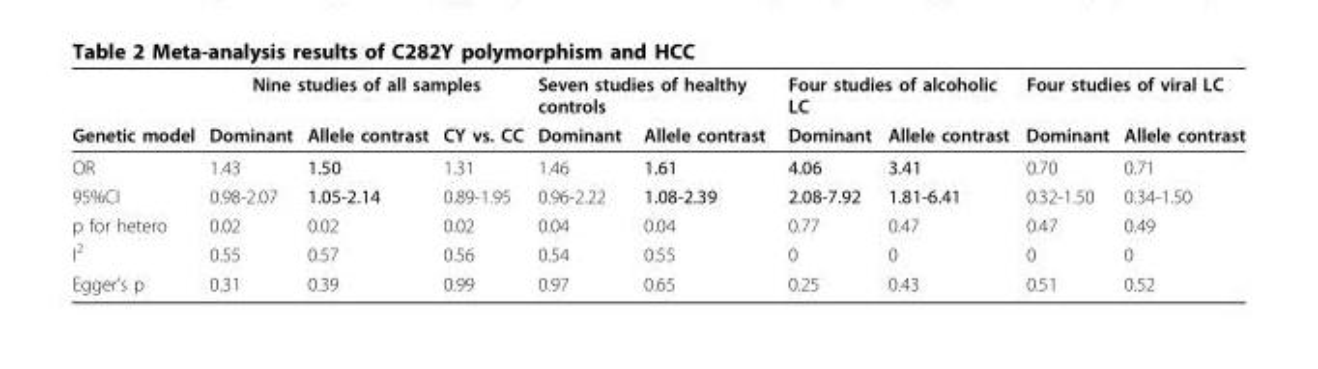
<table><thead><tr><td rowspan="2">Genetic model</td><td colspan="3">Nine studies of all samples</td><td colspan="2">Seven studies of healthy controls</td><td colspan="2">Four studies of alcoholic LC</td><td colspan="2">Four studies of viral LC</td></tr><tr><td>Dominant</td><td>Allele contrast</td><td>CY vs. CC</td><td>Dominant</td><td>Allele contrast</td><td>Dominant</td><td>Allele contrast</td><td>Dominant</td><td>Allele contrast</td></tr></thead><tbody><tr><td>OR</td><td>1.43</td><td>1.50</td><td>1.31</td><td>1.46</td><td>1.61</td><td>4.06</td><td>3.41</td><td>0.70</td><td>0.71</td></tr><tr><td>95%CI</td><td>0.98-2.07</td><td>1.05-2.14</td><td>0.89-1.95</td><td>0.96-2.22</td><td>1.08-2.39</td><td>2.08-7.92</td><td>1.81-6.41</td><td>0.32-1.50</td><td>0.34-1.50</td></tr><tr><td>p for hetero</td><td>0.02</td><td>0.02</td><td>0.02</td><td>0.04</td><td>0.04</td><td>0.77</td><td>0.47</td><td>0.47</td><td>0.49</td></tr><tr><td>I<sup>2</sup></td><td>0.55</td><td>0.57</td><td>0.56</td><td>0.54</td><td>0.55</td><td>0</td><td>0</td><td>0</td><td>0</td></tr><tr><td>Egger’s p</td><td>0.31</td><td>0.39</td><td>0.99</td><td>0.97</td><td>0.65</td><td>0.25</td><td>0.43</td><td>0.51</td><td>0.52</td></tr></tbody></table>